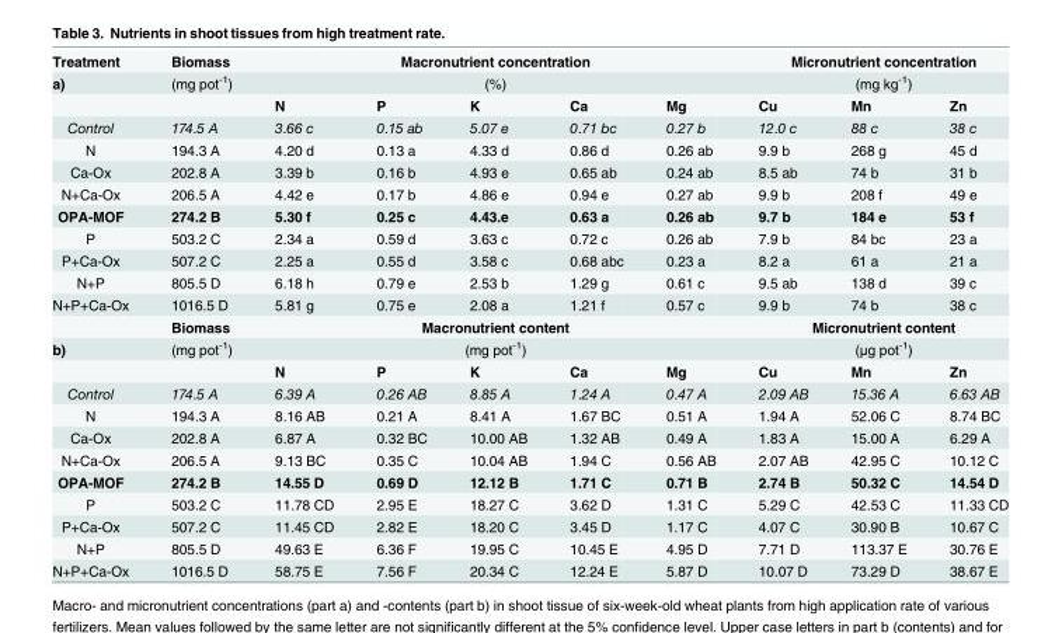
<table><tbody><tr><td>Treatment</td><td>Biomass</td><td colspan="5">Macronutrient concentration</td><td colspan="3">Micronutrient concentration</td></tr><tr><td rowspan="2">a)</td><td>(mg pot<sup>-1</sup>)</td><td colspan="5">(%)</td><td colspan="3">(mg kg<sup>-1</sup>)</td></tr><tr><td></td><td>N</td><td>P</td><td>K</td><td>Ca</td><td>Mg</td><td>Cu</td><td>Mn</td><td>Zn</td></tr><tr><td>Control</td><td>174.5 A</td><td>3.66 c</td><td>0.15 ab</td><td>5.07 e</td><td>0.71 bc</td><td>0.27 b</td><td>12.0 c</td><td>88 c</td><td>38 c</td></tr><tr><td>N</td><td>194.3 A</td><td>4.20 d</td><td>0.13 a</td><td>4.33 d</td><td>0.86 d</td><td>0.26 ab</td><td>9.9 b</td><td>268 g</td><td>45 d</td></tr><tr><td>Ca-Ox</td><td>202.8 A</td><td>3.39 b</td><td>0.16 b</td><td>4.93 e</td><td>0.65 ab</td><td>0.24 ab</td><td>8.5 ab</td><td>74 b</td><td>31 b</td></tr><tr><td>N+Ca-Ox</td><td>206.5 A</td><td>4.42 e</td><td>0.17 b</td><td>4.86 e</td><td>0.94 e</td><td>0.27 ab</td><td>9.9 b</td><td>208 f</td><td>49 e</td></tr><tr><td>OPA-MOF</td><td>274.2 B</td><td>5.30 f</td><td>0.25 c</td><td>4.43.e</td><td>0.63 a</td><td>0.26 ab</td><td>9.7 b</td><td>184 e</td><td>53 f</td></tr><tr><td>P</td><td>503.2 C</td><td>2.34 a</td><td>0.59 d</td><td>3.63 c</td><td>0.72 c</td><td>0.26 ab</td><td>7.9 b</td><td>84 bc</td><td>23 a</td></tr><tr><td>P+Ca-Ox</td><td>507.2 C</td><td>2.25 a</td><td>0.55 d</td><td>3.58 c</td><td>0.68 abc</td><td>0.23 a</td><td>8.2 a</td><td>61 a</td><td>21 a</td></tr><tr><td>N+P</td><td>805.5 D</td><td>6.18 h</td><td>0.79 e</td><td>2.53 b</td><td>1.29 g</td><td>0.61 c</td><td>9.5 ab</td><td>138 d</td><td>39 c</td></tr><tr><td rowspan="2">N+P+Ca-Ox</td><td>1016.5 D</td><td>5.81 g</td><td>0.75 e</td><td>2.08 a</td><td>1.21 f</td><td>0.57 c</td><td>9.9 b</td><td>74 b</td><td>38 c</td></tr><tr><td>Biomass</td><td colspan="5">Macronutrient content</td><td colspan="3">Micronutrient content</td></tr><tr><td rowspan="2">b)</td><td>(mg pot<sup>-1</sup>)</td><td colspan="5">(mg pot<sup>-1</sup>)</td><td colspan="3">(μg pot<sup>-1</sup>)</td></tr><tr><td></td><td>N</td><td>P</td><td>K</td><td>Ca</td><td>Mg</td><td>Cu</td><td>Mn</td><td>Zn</td></tr><tr><td>Control</td><td>174.5 A</td><td>6.39 A</td><td>0.26 AB</td><td>8.85 A</td><td>1.24 A</td><td>0.47 A</td><td>2.09 AB</td><td>15.36 A</td><td>6.63 AB</td></tr><tr><td>N</td><td>194.3 A</td><td>8.16 AB</td><td>0.21 A</td><td>8.41 A</td><td>1.67 BC</td><td>0.51 A</td><td>1.94 A</td><td>52.06 C</td><td>8.74 BC</td></tr><tr><td>Ca-Ox</td><td>202.8 A</td><td>6.87 A</td><td>0.32 BC</td><td>10.00 AB</td><td>1.32 AB</td><td>0.49 A</td><td>1.83 A</td><td>15.00 A</td><td>6.29 A</td></tr><tr><td>N+Ca-Ox</td><td>206.5 A</td><td>9.13 BC</td><td>0.35 C</td><td>10.04 AB</td><td>1.94 C</td><td>0.56 AB</td><td>2.07 AB</td><td>42.95 C</td><td>10.12 C</td></tr><tr><td>OPA-MOF</td><td>274.2 B</td><td>14.55 D</td><td>0.69 D</td><td>12.12 B</td><td>1.71 C</td><td>0.71 B</td><td>2.74 B</td><td>50.32 C</td><td>14.54 D</td></tr><tr><td>P</td><td>503.2 C</td><td>11.78 CD</td><td>2.95 E</td><td>18.27 C</td><td>3.62 D</td><td>1.31 C</td><td>5.29 C</td><td>42.53 C</td><td>11.33 CD</td></tr><tr><td>P+Ca-Ox</td><td>507.2 C</td><td>11.45 CD</td><td>2.82 E</td><td>18.20 C</td><td>3.45 D</td><td>1.17 C</td><td>4.07 C</td><td>30.90 B</td><td>10.67 C</td></tr><tr><td>N+P</td><td>805.5 D</td><td>49.63 E</td><td>6.36 F</td><td>19.95 C</td><td>10.45 E</td><td>4.95 D</td><td>7.71 D</td><td>113.37 E</td><td>30.76 E</td></tr><tr><td>N+P+Ca-Ox</td><td>1016.5 D</td><td>58.75 E</td><td>7.56 F</td><td>20.34 C</td><td>12.24 E</td><td>5.87 D</td><td>10.07 D</td><td>73.29 D</td><td>38.67 E</td></tr></tbody></table>